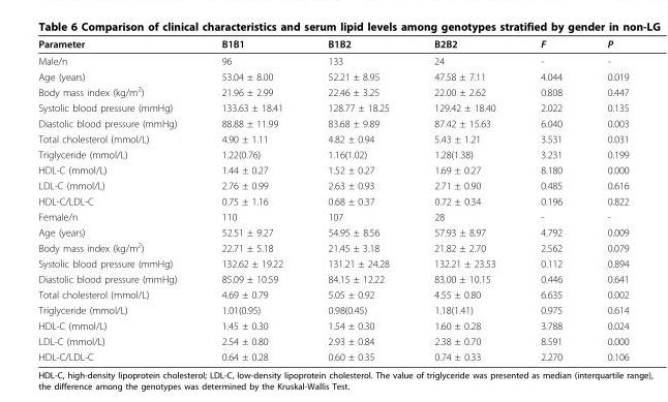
<table><thead><tr><td>Parameter</td><td>B1B1</td><td>B1B2</td><td>B2B2</td><td>F</td><td>P</td></tr></thead><tbody><tr><td>Male/n</td><td>96</td><td>133</td><td>24</td><td>-</td><td>-</td></tr><tr><td>Age (years)</td><td>53.04 ± 8.00</td><td>52.21 ± 8.95</td><td>47.58 ± 7.11</td><td>4.044</td><td>0.019</td></tr><tr><td>Body mass index (kg/m<sup>2</sup>)</td><td>21.96 ± 2.99</td><td>22.46 ± 3.25</td><td>22.00 ± 2.62</td><td>0.808</td><td>0.447</td></tr><tr><td>Systolic blood pressure (mmHg)</td><td>133.63 ± 18.41</td><td>128.77 ± 18.25</td><td>129.42 ± 18.40</td><td>2.022</td><td>0.135</td></tr><tr><td>Diastolic blood pressure (mmHg)</td><td>88.88 ± 11.99</td><td>83.68 ± 9.89</td><td>87.42 ± 15.63</td><td>6.040</td><td>0.003</td></tr><tr><td>Total cholesterol (mmol/L)</td><td>4.90 ± 1.11</td><td>4.82 ± 0.94</td><td>5.43 ± 1.21</td><td>3.531</td><td>0.031</td></tr><tr><td>Triglyceride (mmol/L)</td><td>1.22(0.76)</td><td>1.16(1.02)</td><td>1.28(1.38)</td><td>3.231</td><td>0.199</td></tr><tr><td>HDL-C (mmol/L)</td><td>1.44 ± 0.27</td><td>1.52 ± 0.27</td><td>1.69 ± 0.27</td><td>8.180</td><td>0.000</td></tr><tr><td>LDL-C (mmol/L)</td><td>2.76 ± 0.99</td><td>2.63 ± 0.93</td><td>2.71 ± 0.90</td><td>0.485</td><td>0.616</td></tr><tr><td>HDL-C/LDL-C</td><td>0.75 ± 1.16</td><td>0.68 ± 0.37</td><td>0.72 ± 0.34</td><td>0.196</td><td>0.822</td></tr><tr><td>Female/n</td><td>110</td><td>107</td><td>28</td><td>-</td><td>-</td></tr><tr><td>Age (years)</td><td>52.51 ± 9.27</td><td>54.95 ± 8.56</td><td>57.93 ± 8.97</td><td>4.792</td><td>0.009</td></tr><tr><td>Body mass index (kg/m<sup>2</sup>)</td><td>22.71 ± 5.18</td><td>21.45 ± 3.18</td><td>21.82 ± 2.70</td><td>2.562</td><td>0.079</td></tr><tr><td>Systolic blood pressure (mmHg)</td><td>132.62 ± 19.22</td><td>131.21 ± 24.28</td><td>132.21 ± 23.53</td><td>0.112</td><td>0.894</td></tr><tr><td>Diastolic blood pressure (mmHg)</td><td>85.09 ± 10.59</td><td>84.15 ± 12.22</td><td>83.00 ± 10.15</td><td>0.446</td><td>0.641</td></tr><tr><td>Total cholesterol (mmol/L)</td><td>4.69 ± 0.79</td><td>5.05 ± 0.92</td><td>4.55 ± 0.80</td><td>6.635</td><td>0.002</td></tr><tr><td>Triglyceride (mmol/L)</td><td>1.01(0.95)</td><td>0.98(0.45)</td><td>1.18(1.41)</td><td>0.975</td><td>0.614</td></tr><tr><td>HDL-C (mmol/L)</td><td>1.45 ± 0.30</td><td>1.54 ± 0.30</td><td>1.60 ± 0.28</td><td>3.788</td><td>0.024</td></tr><tr><td>LDL-C (mmol/L)</td><td>2.54 ± 0.80</td><td>2.93 ± 0.84</td><td>2.38 ± 0.70</td><td>8.591</td><td>0.000</td></tr><tr><td>HDL-C/LDL-C</td><td>0.64 ± 0.28</td><td>0.60 ± 0.35</td><td>0.74 ± 0.33</td><td>2.270</td><td>0.106</td></tr></tbody></table>